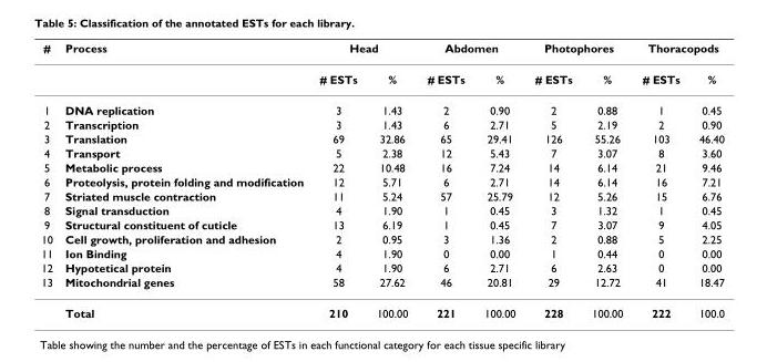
<table><thead><tr><td rowspan="2">#</td><td rowspan="2">Process</td><td colspan="2">Head</td><td colspan="2">Abdomen</td><td colspan="2">Photophores</td><td colspan="2">Thoracopods</td></tr><tr><td># ESTs</td><td>%</td><td># ESTs</td><td>%</td><td># ESTs</td><td>%</td><td># ESTs</td><td>%</td></tr></thead><tbody><tr><td>1</td><td>DNA replication</td><td>3</td><td>1.43</td><td>2</td><td>0.90</td><td>2</td><td>0.88</td><td>1</td><td>0.45</td></tr><tr><td>2</td><td>Transcription</td><td>3</td><td>1.43</td><td>6</td><td>2.71</td><td>5</td><td>2.19</td><td>2</td><td>0.90</td></tr><tr><td>3</td><td>Translation</td><td>69</td><td>32.86</td><td>65</td><td>29.41</td><td>126</td><td>55.26</td><td>103</td><td>46.40</td></tr><tr><td>4</td><td>Transport</td><td>5</td><td>2.38</td><td>12</td><td>5.43</td><td>7</td><td>3.07</td><td>8</td><td>3.60</td></tr><tr><td>5</td><td>Metabolic process</td><td>22</td><td>10.48</td><td>16</td><td>7.24</td><td>14</td><td>6.14</td><td>21</td><td>9.46</td></tr><tr><td>6</td><td>Proteolysis, protein folding and modification</td><td>12</td><td>5.71</td><td>6</td><td>2.71</td><td>14</td><td>6.14</td><td>16</td><td>7.21</td></tr><tr><td>7</td><td>Striated muscle contraction</td><td>11</td><td>5.24</td><td>57</td><td>25.79</td><td>12</td><td>5.26</td><td>15</td><td>6.76</td></tr><tr><td>8</td><td>Signal transduction</td><td>4</td><td>1.90</td><td>1</td><td>0.45</td><td>3</td><td>1.32</td><td>1</td><td>0.45</td></tr><tr><td>9</td><td>Structural constituent of cuticle</td><td>13</td><td>6.19</td><td>1</td><td>0.45</td><td>7</td><td>3.07</td><td>9</td><td>4.05</td></tr><tr><td>10</td><td>Cell growth, proliferation and adhesion</td><td>2</td><td>0.95</td><td>3</td><td>1.36</td><td>2</td><td>0.88</td><td>5</td><td>2.25</td></tr><tr><td>11</td><td>Ion Binding</td><td>4</td><td>1.90</td><td>0</td><td>0.00</td><td>1</td><td>0.44</td><td>0</td><td>0.00</td></tr><tr><td>12</td><td>Hypotetical protein</td><td>4</td><td>1.90</td><td>6</td><td>2.71</td><td>6</td><td>2.63</td><td>0</td><td>0.00</td></tr><tr><td rowspan="2">13</td><td>Mitochondrial genes</td><td>58</td><td>27.62</td><td>46</td><td>20.81</td><td>29</td><td>12.72</td><td>41</td><td>18.47</td></tr><tr><td>Total</td><td>210</td><td>100.00</td><td>221</td><td>100.00</td><td>228</td><td>100.00</td><td>222</td><td>100.0</td></tr></tbody></table>